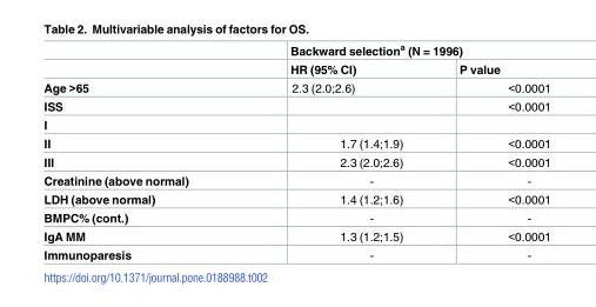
<table><thead><tr><td rowspan="2"></td><td colspan="2">Backward selection<sup>a</sup> (N = 1996)</td></tr><tr><td>HR (95% CI)</td><td>P value</td></tr></thead><tbody><tr><td>Age &gt;65</td><td>2.3 (2.0;2.6)</td><td>&lt;0.0001</td></tr><tr><td>ISS</td><td></td><td>&lt;0.0001</td></tr><tr><td colspan="3">I</td></tr><tr><td>II</td><td>1.7 (1.4;1.9)</td><td>&lt;0.0001</td></tr><tr><td>III</td><td>2.3 (2.0;2.6)</td><td>&lt;0.0001</td></tr><tr><td>Creatinine (above normal)</td><td>-</td><td>-</td></tr><tr><td>LDH (above normal)</td><td>1.4 (1.2;1.6)</td><td>&lt;0.0001</td></tr><tr><td>BMPC% (cont.)</td><td>-</td><td>-</td></tr><tr><td>IgA MM</td><td>1.3 (1.2;1.5)</td><td>&lt;0.0001</td></tr><tr><td>Immunoparesis</td><td>-</td><td>-</td></tr></tbody></table>